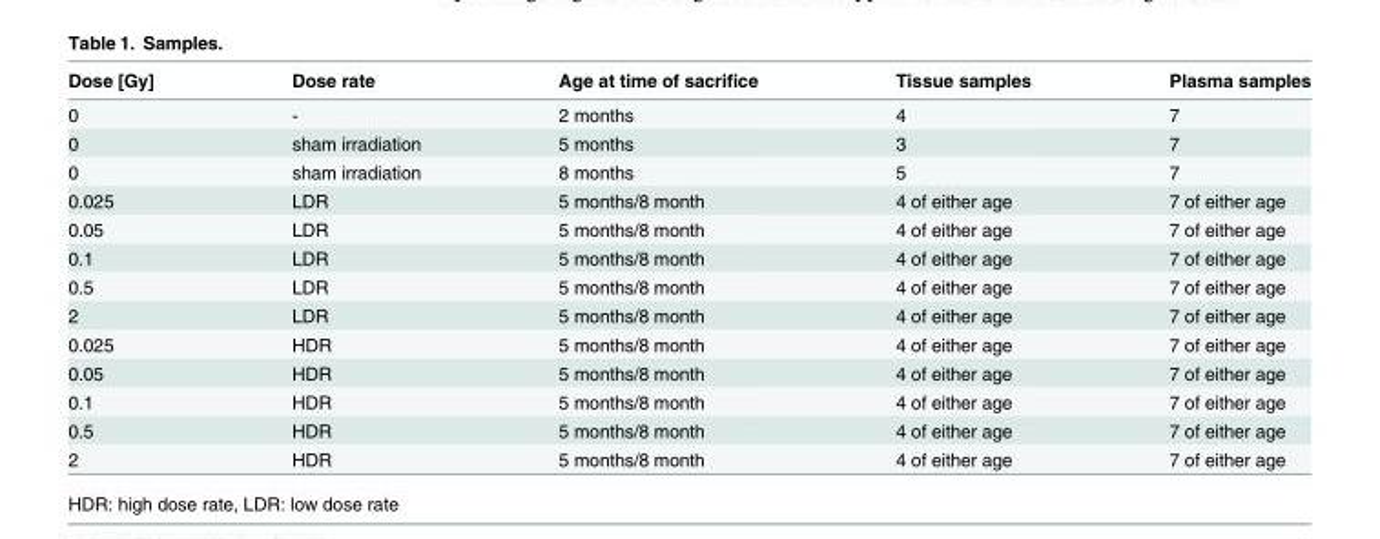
<table><thead><tr><td>Dose [Gy]</td><td>Dose rate</td><td>Age at time of sacrifice</td><td>Tissue samples</td><td>Plasma samples</td></tr></thead><tbody><tr><td>0</td><td>-</td><td>2 months</td><td>4</td><td>7</td></tr><tr><td>0</td><td>sham irradiation</td><td>5 months</td><td>3</td><td>7</td></tr><tr><td>0</td><td>sham irradiation</td><td>8 months</td><td>5</td><td>7</td></tr><tr><td>0.025</td><td>LDR</td><td>5 months/8 month</td><td>4 of either age</td><td>7 of either age</td></tr><tr><td>0.05</td><td>LDR</td><td>5 months/8 month</td><td>4 of either age</td><td>7 of either age</td></tr><tr><td>0.1</td><td>LDR</td><td>5 months/8 month</td><td>4 of either age</td><td>7 of either age</td></tr><tr><td>0.5</td><td>LDR</td><td>5 months/8 month</td><td>4 of either age</td><td>7 of either age</td></tr><tr><td>2</td><td>LDR</td><td>5 months/8 month</td><td>4 of either age</td><td>7 of either age</td></tr><tr><td>0.025</td><td>HDR</td><td>5 months/8 month</td><td>4 of either age</td><td>7 of either age</td></tr><tr><td>0.05</td><td>HDR</td><td>5 months/8 month</td><td>4 of either age</td><td>7 of either age</td></tr><tr><td>0.1</td><td>HDR</td><td>5 months/8 month</td><td>4 of either age</td><td>7 of either age</td></tr><tr><td>0.5</td><td>HDR</td><td>5 months/8 month</td><td>4 of either age</td><td>7 of either age</td></tr><tr><td>2</td><td>HDR</td><td>5 months/8 month</td><td>4 of either age</td><td>7 of either age</td></tr></tbody></table>